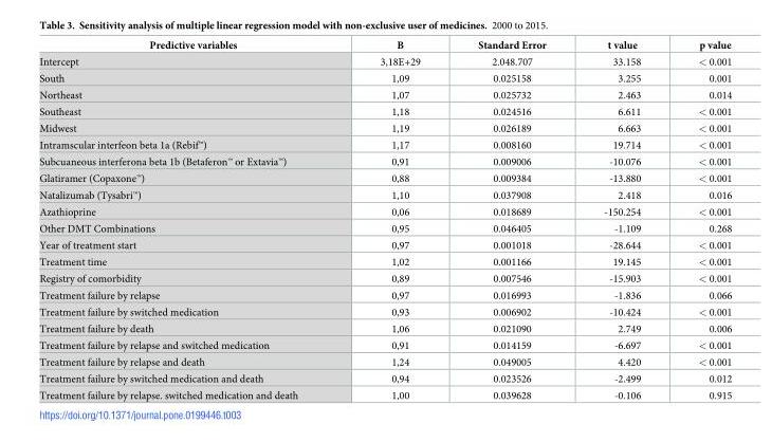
<table><thead><tr><td>Predictive variables</td><td>B</td><td>Standard Error</td><td>t value</td><td>p value</td></tr></thead><tbody><tr><td>Intercept</td><td>3,18E+29</td><td>2.048.707</td><td>33.158</td><td>&lt; 0.001</td></tr><tr><td>South</td><td>1,09</td><td>0.025158</td><td>3.255</td><td>0.001</td></tr><tr><td>Northeast</td><td>1,07</td><td>0.025732</td><td>2.463</td><td>0.014</td></tr><tr><td>Southeast</td><td>1,18</td><td>0.024516</td><td>6.611</td><td>&lt; 0.001</td></tr><tr><td>Midwest</td><td>1,19</td><td>0.026189</td><td>6.663</td><td>&lt; 0.001</td></tr><tr><td>Intramscular interfeon beta 1a (Rebif<sup>™</sup>)</td><td>1,17</td><td>0.008160</td><td>19.714</td><td>&lt; 0.001</td></tr><tr><td>Subcuaneous interferona beta 1b (Betaferon<sup>™</sup> or Extavia<sup>™</sup>)</td><td>0,91</td><td>0.009006</td><td>-10.076</td><td>&lt; 0.001</td></tr><tr><td>Glatiramer (Copaxone<sup>™</sup>)</td><td>0,88</td><td>0.009384</td><td>-13.880</td><td>&lt; 0.001</td></tr><tr><td>Natalizumab (Tysabri<sup>™</sup>)</td><td>1,10</td><td>0.037908</td><td>2.418</td><td>0.016</td></tr><tr><td>Azathioprine</td><td>0,06</td><td>0.018689</td><td>-150.254</td><td>&lt; 0.001</td></tr><tr><td>Other DMT Combinations</td><td>0,95</td><td>0.046405</td><td>-1.109</td><td>0.268</td></tr><tr><td>Year of treatment start</td><td>0,97</td><td>0.001018</td><td>-28.644</td><td>&lt; 0.001</td></tr><tr><td>Treatment time</td><td>1,02</td><td>0.001166</td><td>19.145</td><td>&lt; 0.001</td></tr><tr><td>Registry of comorbidity</td><td>0,89</td><td>0.007546</td><td>-15.903</td><td>&lt; 0.001</td></tr><tr><td>Treatment failure by relapse</td><td>0,97</td><td>0.016993</td><td>-1.836</td><td>0.066</td></tr><tr><td>Treatment failure by switched medication</td><td>0,93</td><td>0.006902</td><td>-10.424</td><td>&lt; 0.001</td></tr><tr><td>Treatment failure by death</td><td>1,06</td><td>0.021090</td><td>2.749</td><td>0.006</td></tr><tr><td>Treatment failure by relapse and switched medication</td><td>0,91</td><td>0.014159</td><td>-6.697</td><td>&lt; 0.001</td></tr><tr><td>Treatment failure by relapse and death</td><td>1,24</td><td>0.049005</td><td>4.420</td><td>&lt; 0.001</td></tr><tr><td>Treatment failure by switched medication and death</td><td>0,94</td><td>0.023526</td><td>-2.499</td><td>0.012</td></tr><tr><td>Treatment failure by relapse. switched medication and death</td><td>1,00</td><td>0.039628</td><td>-0.106</td><td>0.915</td></tr></tbody></table>